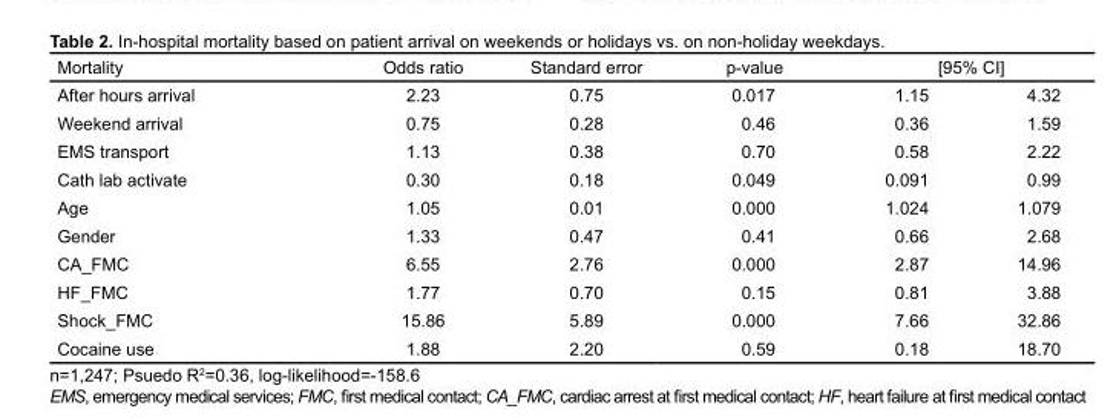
<table><thead><tr><td rowspan="2">Mortality After hours arrival</td><td rowspan="2">Odds ratio 2.23</td><td rowspan="2">Standard error 0.75</td><td rowspan="2">p-value 0.017</td><td colspan="2">[95% CI]</td></tr><tr><td>1.15</td><td>4.32</td></tr></thead><tbody><tr><td>Weekend arrival</td><td>0.75</td><td>0.28</td><td>0.46</td><td>0.36</td><td>1.59</td></tr><tr><td>EMS transport</td><td>1.13</td><td>0.38</td><td>0.70</td><td>0.58</td><td>2.22</td></tr><tr><td>Cath lab activate</td><td>0.30</td><td>0.18</td><td>0.049</td><td>0.091</td><td>0.99</td></tr><tr><td>Age</td><td>1.05</td><td>0.01</td><td>0.000</td><td>1.024</td><td>1.079</td></tr><tr><td>Gender</td><td>1.33</td><td>0.47</td><td>0.41</td><td>0.66</td><td>2.68</td></tr><tr><td>CA_FMC</td><td>6.55</td><td>2.76</td><td>0.000</td><td>2.87</td><td>14.96</td></tr><tr><td>HF_FMC</td><td>1.77</td><td>0.70</td><td>0.15</td><td>0.81</td><td>3.88</td></tr><tr><td>Shock_FMC</td><td>15.86</td><td>5.89</td><td>0.000</td><td>7.66</td><td>32.86</td></tr><tr><td>Cocaine use</td><td>1.88</td><td>2.20</td><td>0.59</td><td>0.18</td><td>18.70</td></tr></tbody></table>